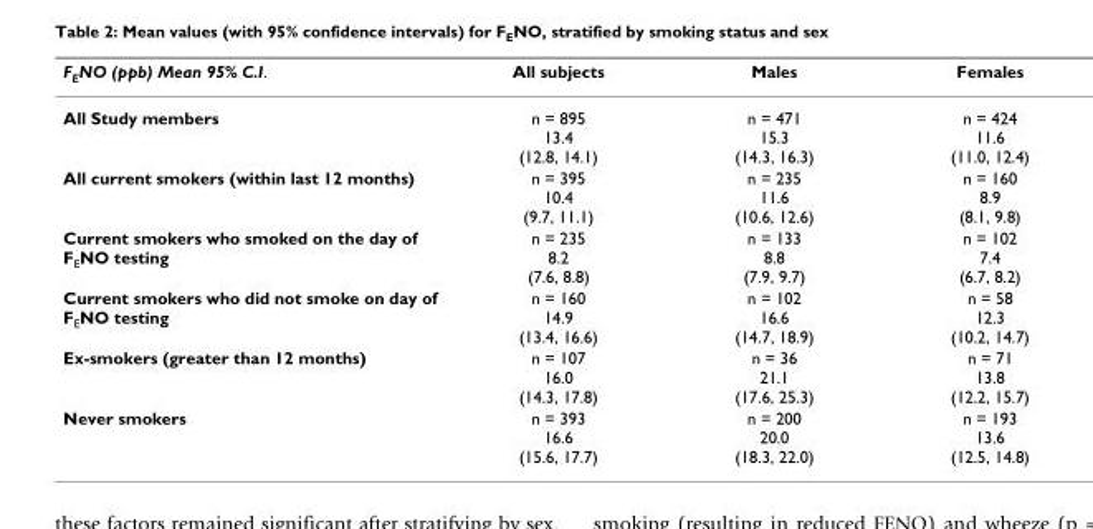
<table><thead><tr><td>F<sub>E</sub>NO (ppb) Mean 95% C.I.</td><td>All subjects</td><td>Males</td><td>Females</td></tr></thead><tbody><tr><td>All Study members</td><td>n = 895 13.4 (12.8, 14.1)</td><td>n = 471 15.3 (14.3, 16.3)</td><td>n = 424 11.6 (11.0, 12.4)</td></tr><tr><td>All current smokers (within last 12 months)</td><td>n = 395 10.4 (9.7, 11.1)</td><td>n = 235 11.6 (10.6, 12.6)</td><td>n = 160 8.9 (8.1, 9.8)</td></tr><tr><td>Current smokers who smoked on the day of F<sub>E</sub>NO testing</td><td>n = 235 8.2 (7.6, 8.8)</td><td>n = 133 8.8 (7.9, 9.7)</td><td>n = 102 7.4 (6.7, 8.2)</td></tr><tr><td>Current smokers who did not smoke on day of F<sub>E</sub>NO testing</td><td>n = 160 14.9 (13.4, 16.6)</td><td>n = 102 16.6 (14.7, 18.9)</td><td>n = 58 12.3 (10.2, 14.7)</td></tr><tr><td>Ex-smokers (greater than 12 months)</td><td>n = 107 16.0 (14.3, 17.8)</td><td>n = 36 21.1 (17.6, 25.3)</td><td>n = 71 13.8 (12.2, 15.7)</td></tr><tr><td>Never smokers</td><td>n = 393 16.6 (15.6, 17.7)</td><td>n = 200 20.0 (18.3, 22.0)</td><td>n = 193 13.6 (12.5, 14.8)</td></tr></tbody></table>